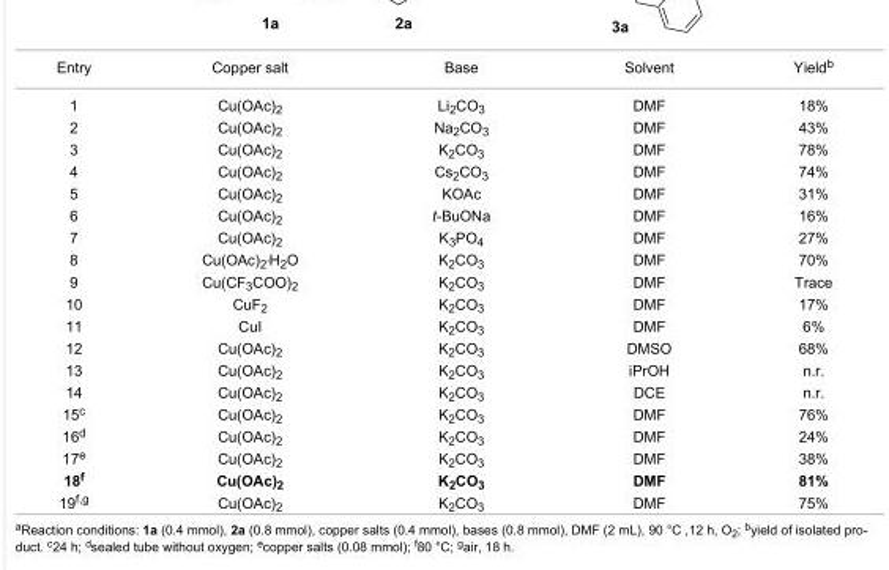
<table><tbody><tr><td>Entry</td><td>Copper salt</td><td>Base</td><td>Solvent</td><td>Yield<sup>b</sup></td></tr><tr><td>1</td><td>Cu(OAc)<sub>2</sub></td><td>Li<sub>2</sub>CO<sub>3</sub></td><td>DMF</td><td>18%</td></tr><tr><td>2</td><td>Cu(OAc)<sub>2</sub></td><td>Na<sub>2</sub>CO<sub>3</sub></td><td>DMF</td><td>43%</td></tr><tr><td>3</td><td>Cu(OAc)<sub>2</sub></td><td>K<sub>2</sub>CO<sub>3</sub></td><td>DMF</td><td>78%</td></tr><tr><td>4</td><td>Cu(OAc)<sub>2</sub></td><td>Cs<sub>2</sub>CO<sub>3</sub></td><td>DMF</td><td>74%</td></tr><tr><td>5</td><td>Cu(OAc)<sub>2</sub></td><td>KOAc</td><td>DMF</td><td>31%</td></tr><tr><td>6</td><td>Cu(OAc)<sub>2</sub></td><td>t-BuONa</td><td>DMF</td><td>16%</td></tr><tr><td>7</td><td>Cu(OAc)<sub>2</sub></td><td>K<sub>3</sub>PO<sub>4</sub></td><td>DMF</td><td>27%</td></tr><tr><td>8</td><td>Cu(OAc)<sub>2’</sub>H<sub>2</sub>O</td><td>K<sub>2</sub>CO<sub>3</sub></td><td>DMF</td><td>70%</td></tr><tr><td>9</td><td>Cu(CF<sub>3</sub>COO)<sub>2</sub></td><td>K<sub>2</sub>CO<sub>3</sub></td><td>DMF</td><td>Trace</td></tr><tr><td>10</td><td>CuF<sub>2</sub></td><td>K<sub>2</sub>CO<sub>3</sub></td><td>DMF</td><td>17%</td></tr><tr><td>11</td><td>CuI</td><td>K<sub>2</sub>CO<sub>3</sub></td><td>DMF</td><td>6%</td></tr><tr><td>12</td><td>Cu(OAc)<sub>2</sub></td><td>K<sub>2</sub>CO<sub>3</sub></td><td>DMSO</td><td>68%</td></tr><tr><td>13</td><td>Cu(OAc)<sub>2</sub></td><td>K<sub>2</sub>CO<sub>3</sub></td><td>iPrOH</td><td>n.r.</td></tr><tr><td>14</td><td>Cu(OAc)<sub>2</sub></td><td>K<sub>2</sub>CO<sub>3</sub></td><td>DCE</td><td>n.r.</td></tr><tr><td>15<sup>c</sup></td><td>Cu(OAc)<sub>2</sub></td><td>K<sub>2</sub>CO<sub>3</sub></td><td>DMF</td><td>76%</td></tr><tr><td>16<sup>d</sup></td><td>Cu(OAc)<sub>2</sub></td><td>K<sub>2</sub>CO<sub>3</sub></td><td>DMF</td><td>24%</td></tr><tr><td>17<sup>e</sup></td><td>Cu(OAc)<sub>2</sub></td><td>K<sub>2</sub>CO<sub>3</sub></td><td>DMF</td><td>38%</td></tr><tr><td>18<sup>f</sup></td><td>Cu(OAc)<sub>2</sub></td><td>K<sub>2</sub>CO<sub>3</sub></td><td>DMF</td><td>81%</td></tr><tr><td>19<sup>f,g</sup></td><td>Cu(OAc)<sub>2</sub></td><td>K<sub>2</sub>CO<sub>3</sub></td><td>DMF</td><td>75%</td></tr></tbody></table>